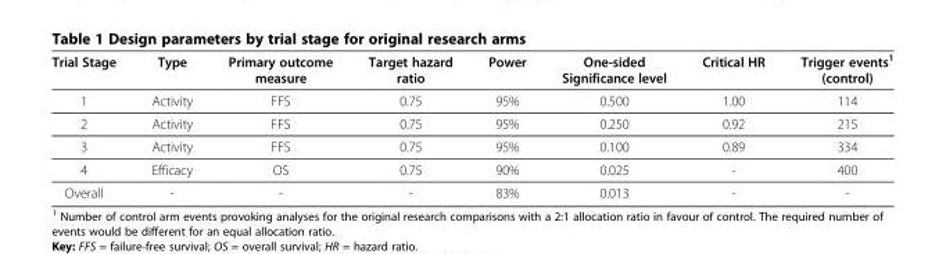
<table><thead><tr><td>Trial Stage</td><td>Type</td><td>Primary outcome measure</td><td>Target hazard ratio</td><td>Power</td><td>One-sided Significance level</td><td>Critical HR</td><td>Trigger events<sup>1</sup> (control)</td></tr></thead><tbody><tr><td>1</td><td>Activity</td><td>FFS</td><td>0.75</td><td>95%</td><td>0.500</td><td>1.00</td><td>114</td></tr><tr><td>2</td><td>Activity</td><td>FFS</td><td>0.75</td><td>95%</td><td>0.250</td><td>0.92</td><td>215</td></tr><tr><td>3</td><td>Activity</td><td>FFS</td><td>0.75</td><td>95%</td><td>0.100</td><td>0.89</td><td>334</td></tr><tr><td>4</td><td>Efficacy</td><td>OS</td><td>0.75</td><td>90%</td><td>0.025</td><td>-</td><td>400</td></tr><tr><td>Overall</td><td>-</td><td>-</td><td>-</td><td>83%</td><td>0.013</td><td>-</td><td>-</td></tr></tbody></table>